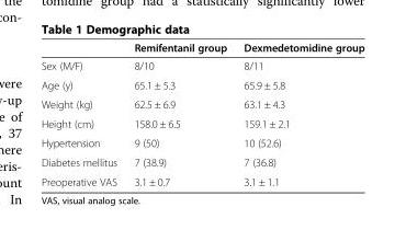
<table><thead><tr><td></td><td>Remifentanil group</td><td>Dexmedetomidine group</td></tr></thead><tbody><tr><td>Sex (M/F)</td><td>8/10</td><td>8/11</td></tr><tr><td>Age (y)</td><td>65.1 ± 5.3</td><td>65.9 ± 5.8</td></tr><tr><td>Weight (kg)</td><td>62.5 ± 6.9</td><td>63.1 ± 4.3</td></tr><tr><td>Height (cm)</td><td>158.0 ± 6.5</td><td>159.1 ± 2.1</td></tr><tr><td>Hypertension</td><td>9 (50)</td><td>10 (52.6)</td></tr><tr><td>Diabetes mellitus</td><td>7 (38.9)</td><td>7 (36.8)</td></tr><tr><td>Preoperative VAS</td><td>3.1 ± 0.7</td><td>3.1 ± 1.1</td></tr></tbody></table>